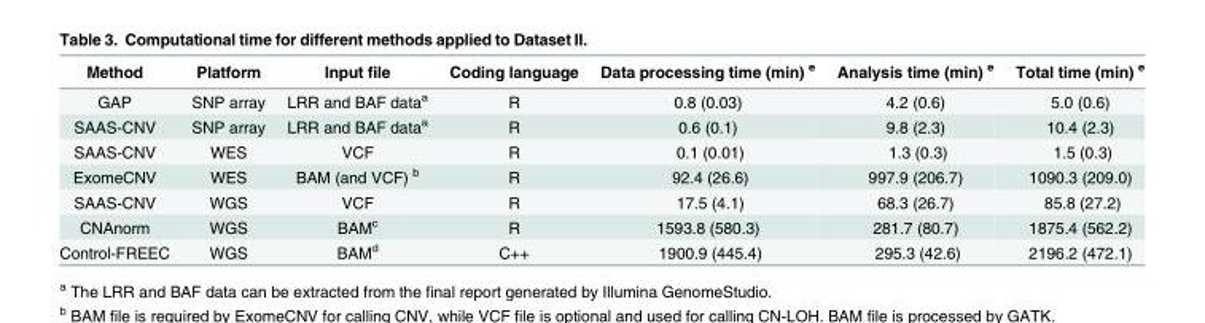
<table><thead><tr><td>Method</td><td>Platform</td><td>Input file</td><td>Coding language</td><td>Data processing time (min) <sup>e</sup></td><td>Analysis time (min) <sup>e</sup></td><td>Total time (min) <sup>e</sup></td></tr></thead><tbody><tr><td>GAP</td><td>SNP array</td><td>LRR and BAF data<sup>a</sup></td><td>R</td><td>0.8 (0.03)</td><td>4.2 (0.6)</td><td>5.0 (0.6)</td></tr><tr><td>SAAS-CNV</td><td>SNP array</td><td>LRR and BAF data<sup>a</sup></td><td>R</td><td>0.6 (0.1)</td><td>9.8 (2.3)</td><td>10.4 (2.3)</td></tr><tr><td>SAAS-CNV</td><td>WES</td><td>VCF</td><td>R</td><td>0.1 (0.01)</td><td>1.3 (0.3)</td><td>1.5 (0.3)</td></tr><tr><td>ExomeCNV</td><td>WES</td><td>BAM (and VCF) <sup>b</sup></td><td>R</td><td>92.4 (26.6)</td><td>997.9 (206.7)</td><td>1090.3 (209.0)</td></tr><tr><td>SAAS-CNV</td><td>WGS</td><td>VCF</td><td>R</td><td>17.5 (4.1)</td><td>68.3 (26.7)</td><td>85.8 (27.2)</td></tr><tr><td>CNAnorm</td><td>WGS</td><td>BAM<sup>c</sup></td><td>R</td><td>1593.8 (580.3)</td><td>281.7 (80.7)</td><td>1875.4 (562.2)</td></tr><tr><td>Control-FREEC</td><td>WGS</td><td>BAM<sup>d</sup></td><td>C++</td><td>1900.9 (445.4)</td><td>295.3 (42.6)</td><td>2196.2 (472.1)</td></tr></tbody></table>